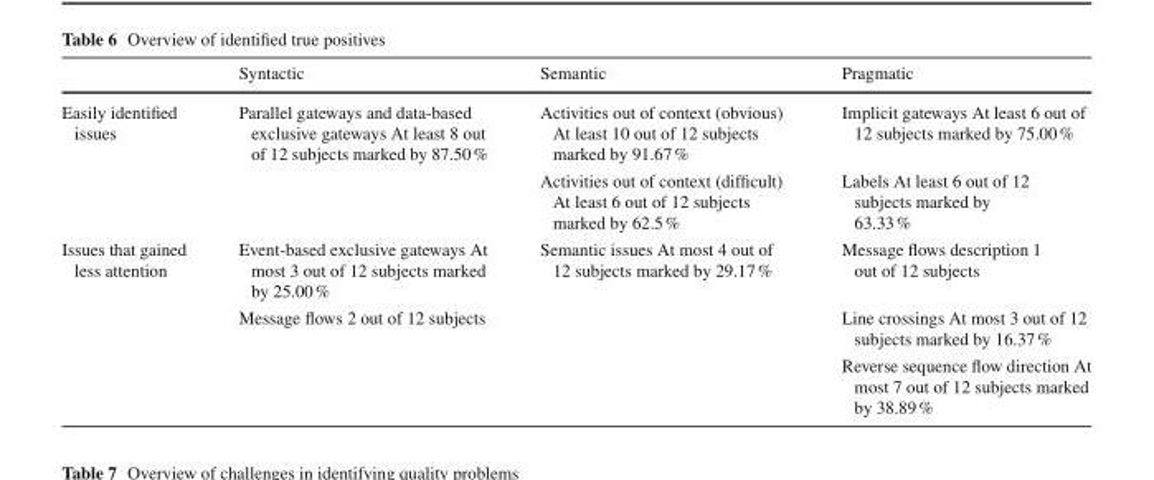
<table><thead><tr><td></td><td>Syntactic</td><td>Semantic</td><td>Pragmatic</td></tr></thead><tbody><tr><td rowspan="2">Easily identified issues</td><td>Parallel gateways and data-based exclusive gateways At least 8 out of 12 subjects marked by 87.50%</td><td>Activities out of context (obvious) At least 10 out of 12 subjects marked by 91.67%</td><td>Implicit gateways At least 6 out of 12 subjects marked by 75.00%</td></tr><tr><td></td><td>Activities out of context (difficult) At least 6 out of 12 subjects marked by 62.5%</td><td>Labels At least 6 out of 12 subjects marked by 63.33%</td></tr><tr><td rowspan="3">Issues that gained less attention</td><td>Event-based exclusive gateways At most 3 out of 12 subjects marked by 25.00%</td><td>Semantic issues At most 4 out of 12 subjects marked by 29.17%</td><td>Message flows description 1 out of 12 subjects</td></tr><tr><td>Message flows 2 out of 12 subjects</td><td></td><td>Line crossings At most 3 out of 12 subjects marked by 16.37%</td></tr><tr><td></td><td></td><td>Reverse sequence flow direction At most 7 out of 12 subjects marked by 38.89%</td></tr></tbody></table>